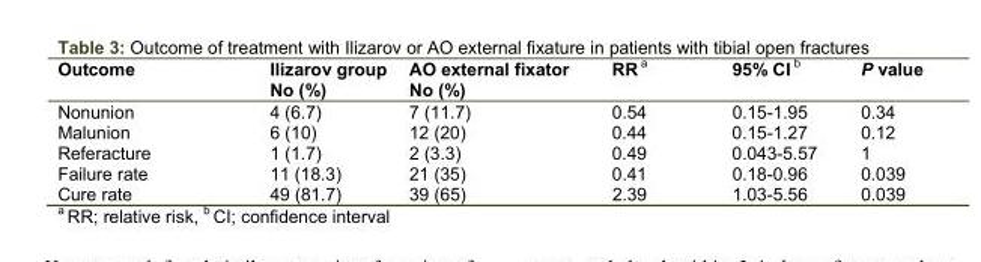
<table><thead><tr><td>Outcome</td><td>Ilizarov group No (%)</td><td>AO external fixator No (%)</td><td>RR a</td><td>95% CI b</td><td>P value</td></tr></thead><tbody><tr><td>Nonunion</td><td>4 (6.7)</td><td>7 (11.7)</td><td>0.54</td><td>0.15-1.95</td><td>0.34</td></tr><tr><td>Malunion</td><td>6 (10)</td><td>12 (20)</td><td>0.44</td><td>0.15-1.27</td><td>0.12</td></tr><tr><td>Referacture</td><td>1 (1.7)</td><td>2 (3.3)</td><td>0.49</td><td>0.043-5.57</td><td>1</td></tr><tr><td>Failure rate</td><td>11 (18.3)</td><td>21 (35)</td><td>0.41</td><td>0.18-0.96</td><td>0.039</td></tr><tr><td>Cure rate</td><td>49 (81.7)</td><td>39 (65)</td><td>2.39</td><td>1.03-5.56</td><td>0.039</td></tr></tbody></table>